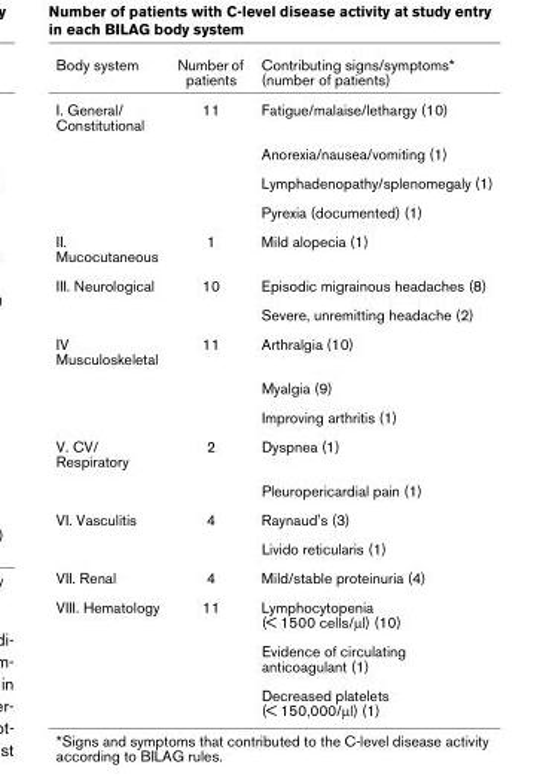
<table><thead><tr><td>Body system</td><td>Number of patients</td><td>Contributing signs/symptoms* (number of patients)</td></tr></thead><tbody><tr><td rowspan="4">I. General/ Constitutional</td><td>11</td><td>Fatigue/malaise/lethargy (10)</td></tr><tr><td></td><td>Anorexia/nausea/vomiting (1)</td></tr><tr><td></td><td>Lymphadenopathy/splenomegaly (1)</td></tr><tr><td></td><td>Pyrexia (documented) (1)</td></tr><tr><td>II. Mucocutaneous</td><td>1</td><td>Mild alopecia (1)</td></tr><tr><td rowspan="2">III. Neurological</td><td>10</td><td>Episodic migrainous headaches (8)</td></tr><tr><td></td><td>Severe, unremitting headache (2)</td></tr><tr><td rowspan="3">IV Musculoskeletal</td><td>11</td><td>Arthralgia (10)</td></tr><tr><td></td><td>Myalgia (9)</td></tr><tr><td></td><td>Improving arthritis (1)</td></tr><tr><td rowspan="2">V. CV/ Respiratory</td><td>2</td><td>Dyspnea (1)</td></tr><tr><td></td><td>Pleuropericardial pain (1)</td></tr><tr><td rowspan="2">VI. Vasculitis</td><td>4</td><td>Raynaud&#x27;s (3)</td></tr><tr><td></td><td>Livido reticularis (1)</td></tr><tr><td>VII. Renal</td><td>4</td><td>Mild/stable proteinuria (4)</td></tr><tr><td rowspan="3">VIII. Hematology</td><td>11</td><td>Lymphocytopenia (&lt; 1500 cells/µl) (10)</td></tr><tr><td></td><td>Evidence of circulating anticoagulant (1)</td></tr><tr><td></td><td>Decreased platelets (&lt; 150,000/µl) (1)</td></tr></tbody></table>